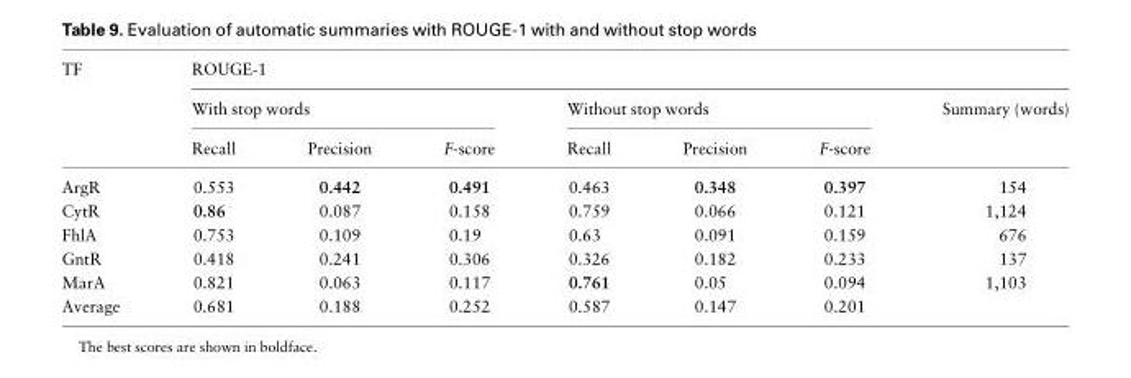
<table><thead><tr><td rowspan="3">TF</td><td colspan="7">ROUGE-1</td></tr><tr><td colspan="3">With stop words</td><td colspan="3">Without stop words</td><td rowspan="2">Summary (words)</td></tr><tr><td>Recall</td><td>Precision</td><td>F-score</td><td>Recall</td><td>Precision</td><td>F-score</td></tr></thead><tbody><tr><td>ArgR</td><td>0.553</td><td>0.442</td><td>0.491</td><td>0.463</td><td>0.348</td><td>0.397</td><td>154</td></tr><tr><td>CytR</td><td>0.86</td><td>0.087</td><td>0.158</td><td>0.759</td><td>0.066</td><td>0.121</td><td>1,124</td></tr><tr><td>FhlA</td><td>0.753</td><td>0.109</td><td>0.19</td><td>0.63</td><td>0.091</td><td>0.159</td><td>676</td></tr><tr><td>GntR</td><td>0.418</td><td>0.241</td><td>0.306</td><td>0.326</td><td>0.182</td><td>0.233</td><td>137</td></tr><tr><td>MarA</td><td>0.821</td><td>0.063</td><td>0.117</td><td>0.761</td><td>0.05</td><td>0.094</td><td>1,103</td></tr><tr><td>Average</td><td>0.681</td><td>0.188</td><td>0.252</td><td>0.587</td><td>0.147</td><td>0.201</td><td></td></tr></tbody></table>